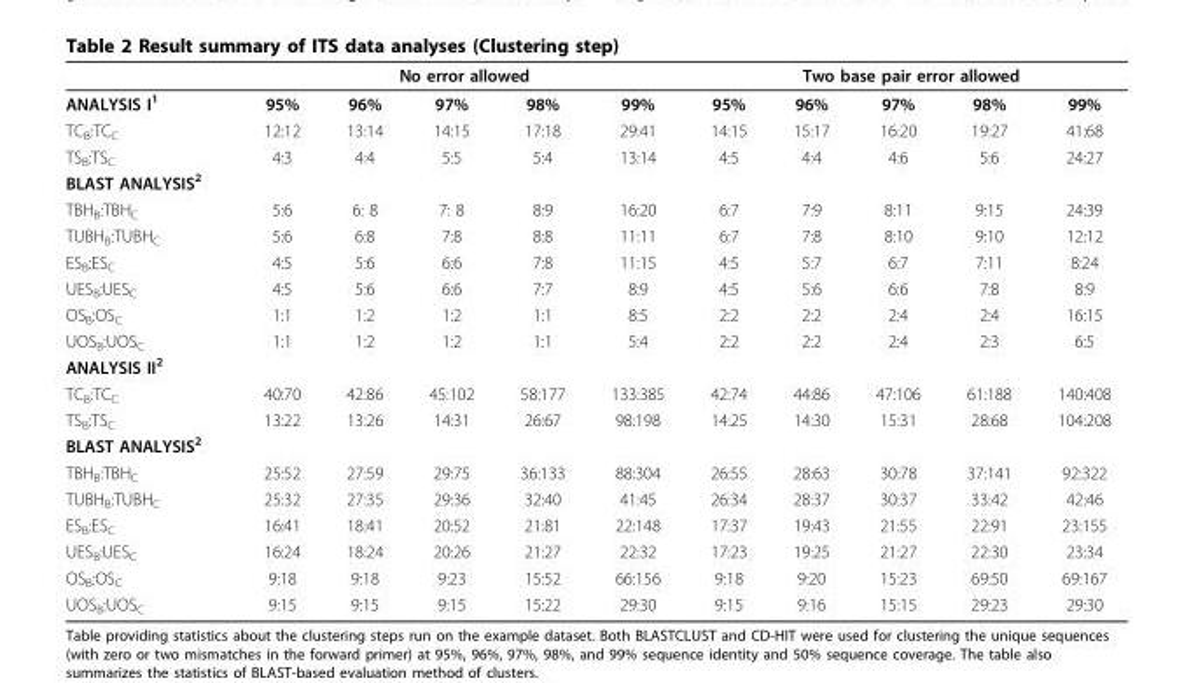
<table><thead><tr><td rowspan="2">ANALYSIS I<sup>1</sup></td><td colspan="5">No error allowed</td><td colspan="5">Two base pair error allowed</td></tr><tr><td>95%</td><td>96%</td><td>97%</td><td>98%</td><td>99%</td><td>95%</td><td>96%</td><td>97%</td><td>98%</td><td>99%</td></tr></thead><tbody><tr><td>TC<sub>B</sub>:TC<sub>C</sub></td><td>12:12</td><td>13:14</td><td>14:15</td><td>17:18</td><td>29:41</td><td>14:15</td><td>15:17</td><td>16:20</td><td>19:27</td><td>41:68</td></tr><tr><td>TS<sub>B</sub>:TS<sub>C</sub></td><td>4:3</td><td>4:4</td><td>5:5</td><td>5:4</td><td>13:14</td><td>4:5</td><td>4:4</td><td>4:6</td><td>5:6</td><td>24:27</td></tr><tr><td colspan="11">BLAST ANALYSIS<sup>2</sup></td></tr><tr><td>TBH<sub>B</sub>:TBH<sub>C</sub></td><td>5:6</td><td>6: 8</td><td>7: 8</td><td>8:9</td><td>16:20</td><td>6:7</td><td>7:9</td><td>8:11</td><td>9:15</td><td>24:39</td></tr><tr><td>TUBH<sub>B</sub>:TUBH<sub>C</sub></td><td>5:6</td><td>6:8</td><td>7:8</td><td>8:8</td><td>11:11</td><td>6:7</td><td>7:8</td><td>8:10</td><td>9:10</td><td>12:12</td></tr><tr><td>ES<sub>B</sub>:ES<sub>C</sub></td><td>4:5</td><td>5:6</td><td>6:6</td><td>7:8</td><td>11:15</td><td>4:5</td><td>5:7</td><td>6:7</td><td>7:11</td><td>8:24</td></tr><tr><td>UES<sub>B</sub>:UES<sub>C</sub></td><td>4:5</td><td>5:6</td><td>6:6</td><td>7:7</td><td>8:9</td><td>4:5</td><td>5:6</td><td>6:6</td><td>7:8</td><td>8:9</td></tr><tr><td>OS<sub>B</sub>:OS<sub>C</sub></td><td>1:1</td><td>1:2</td><td>1:2</td><td>1:1</td><td>8:5</td><td>2:2</td><td>2:2</td><td>2:4</td><td>2:4</td><td>16:15</td></tr><tr><td>UOS<sub>B</sub>:UOS<sub>C</sub></td><td>1:1</td><td>1:2</td><td>1:2</td><td>1:1</td><td>5:4</td><td>2:2</td><td>2:2</td><td>2:4</td><td>2:3</td><td>6:5</td></tr><tr><td colspan="11">ANALYSIS II<sup>2</sup></td></tr><tr><td>TC<sub>B</sub>:TC<sub>C</sub></td><td>40:70</td><td>42:86</td><td>45:102</td><td>58:177</td><td>133:385</td><td>42:74</td><td>44:86</td><td>47:106</td><td>61:188</td><td>140:408</td></tr><tr><td>TS<sub>B</sub>:TS<sub>C</sub></td><td>13:22</td><td>13:26</td><td>14:31</td><td>26:67</td><td>98:198</td><td>14:25</td><td>14:30</td><td>15:31</td><td>28:68</td><td>104:208</td></tr><tr><td colspan="11">BLAST ANALYSIS<sup>2</sup></td></tr><tr><td>TBH<sub>B</sub>:TBH<sub>C</sub></td><td>25:52</td><td>27:59</td><td>29:75</td><td>36:133</td><td>88:304</td><td>26:55</td><td>28:63</td><td>30:78</td><td>37:141</td><td>92:322</td></tr><tr><td>TUBH<sub>B</sub>:TUBH<sub>C</sub></td><td>25:32</td><td>27:35</td><td>29:36</td><td>32:40</td><td>41:45</td><td>26:34</td><td>28:37</td><td>30:37</td><td>33:42</td><td>42:46</td></tr><tr><td>ES<sub>B</sub>:ES<sub>C</sub></td><td>16:41</td><td>18:41</td><td>20:52</td><td>21:81</td><td>22:148</td><td>17:37</td><td>19:43</td><td>21:55</td><td>22:91</td><td>23:155</td></tr><tr><td>UES<sub>B</sub>:UES<sub>C</sub></td><td>16:24</td><td>18:24</td><td>20:26</td><td>21:27</td><td>22:32</td><td>17:23</td><td>19:25</td><td>21:27</td><td>22:30</td><td>23:34</td></tr><tr><td>OS<sub>B</sub>:OS<sub>C</sub></td><td>9:18</td><td>9:18</td><td>9:23</td><td>15:52</td><td>66:156</td><td>9:18</td><td>9:20</td><td>15:23</td><td>69:50</td><td>69:167</td></tr><tr><td>UOS<sub>B</sub>:UOS<sub>C</sub></td><td>9:15</td><td>9:15</td><td>9:15</td><td>15:22</td><td>29:30</td><td>9:15</td><td>9:16</td><td>15:15</td><td>29:23</td><td>29:30</td></tr></tbody></table>